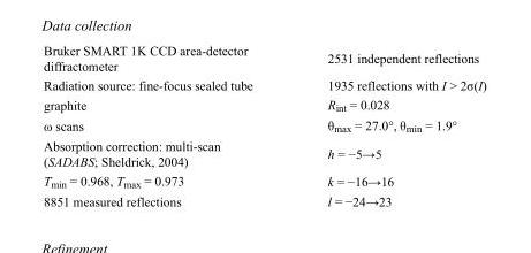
<table><tbody><tr><td>Bruker SMART 1K CCD area-detector diffractometer</td><td>2531 independent reflections</td></tr><tr><td>Radiation source: fine-focus sealed tube</td><td>1935 reflections with I &gt; 2σ(I)</td></tr><tr><td>graphite</td><td>R<sub>int</sub> = 0.028</td></tr><tr><td>ω scans</td><td>θ<sub>max</sub> = 27.0°, θ<sub>min</sub> = 1.9°</td></tr><tr><td>Absorption correction: multi-scan (SADABS; Sheldrick, 2004)</td><td>h = −5→5</td></tr><tr><td>T<sub>min</sub> = 0.968, T<sub>max</sub> = 0.973</td><td>k = −16→16</td></tr><tr><td>8851 measured reflections</td><td>l = −24→23</td></tr></tbody></table>